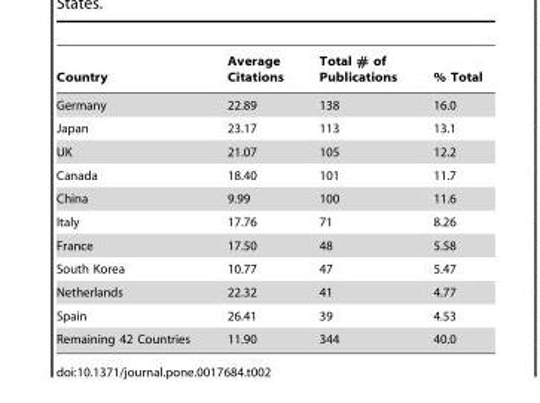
<table><thead><tr><td>Country</td><td>Average Citations</td><td>Total # of Publications</td><td>% Total</td></tr></thead><tbody><tr><td>Germany</td><td>22.89</td><td>138</td><td>16.0</td></tr><tr><td>Japan</td><td>23.17</td><td>113</td><td>13.1</td></tr><tr><td>UK</td><td>21.07</td><td>105</td><td>12.2</td></tr><tr><td>Canada</td><td>18.40</td><td>101</td><td>11.7</td></tr><tr><td>China</td><td>9.99</td><td>100</td><td>11.6</td></tr><tr><td>Italy</td><td>17.76</td><td>71</td><td>8.26</td></tr><tr><td>France</td><td>17.50</td><td>48</td><td>5.58</td></tr><tr><td>South Korea</td><td>10.77</td><td>47</td><td>5.47</td></tr><tr><td>Netherlands</td><td>22.32</td><td>41</td><td>4.77</td></tr><tr><td>Spain</td><td>26.41</td><td>39</td><td>4.53</td></tr><tr><td>Remaining 42 Countries</td><td>11.90</td><td>344</td><td>40.0</td></tr></tbody></table>